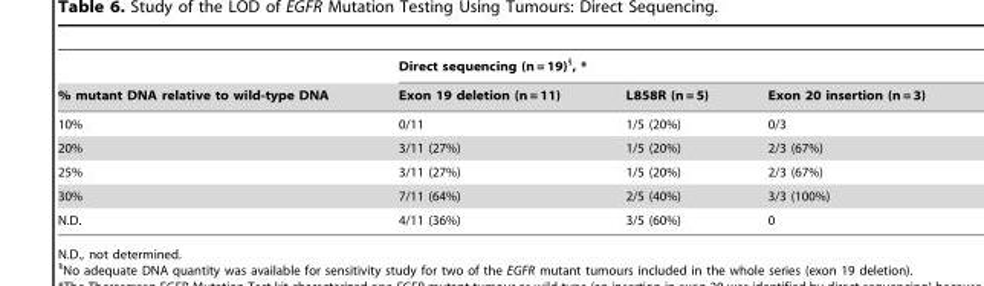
<table><thead><tr><td rowspan="2">% mutant DNA relative to wild-type DNA</td><td colspan="3">Direct sequencing (n = 19)§, *</td></tr><tr><td>Exon 19 deletion (n = 11)</td><td>L858R (n = 5)</td><td>Exon 20 insertion (n = 3)</td></tr></thead><tbody><tr><td>10%</td><td>0/11</td><td>1/5 (20%)</td><td>0/3</td></tr><tr><td>20%</td><td>3/11 (27%)</td><td>1/5 (20%)</td><td>2/3 (67%)</td></tr><tr><td>25%</td><td>3/11 (27%)</td><td>1/5 (20%)</td><td>2/3 (67%)</td></tr><tr><td>30%</td><td>7/11 (64%)</td><td>2/5 (40%)</td><td>3/3 (100%)</td></tr><tr><td>N.D.</td><td>4/11 (36%)</td><td>3/5 (60%)</td><td>0</td></tr></tbody></table>